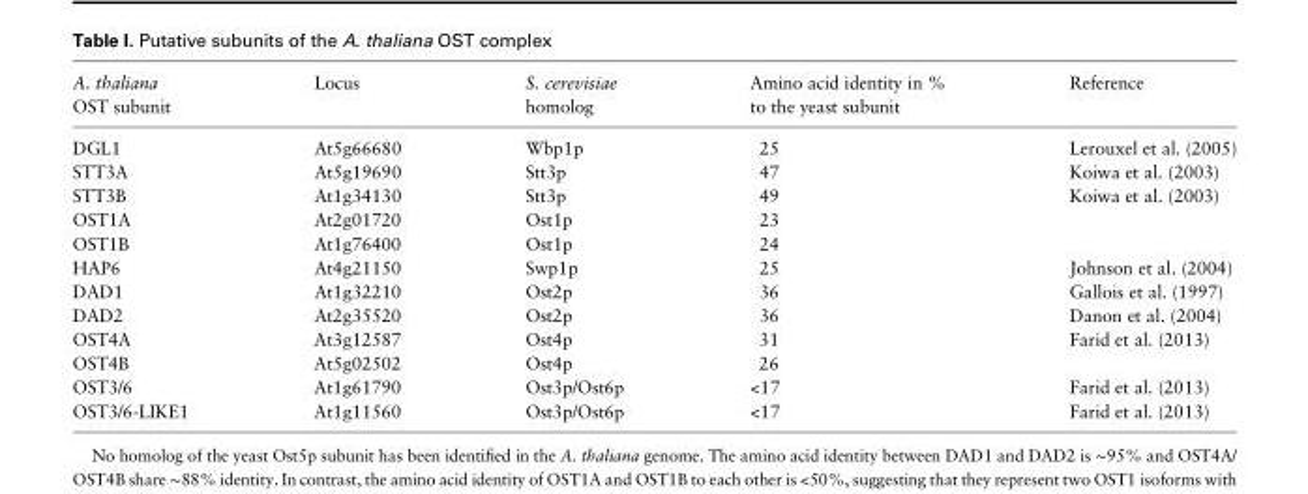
<table><thead><tr><td>A. thaliana OST subunit</td><td>Locus</td><td>S. cerevisiae homolog</td><td>Amino acid identity in % to the yeast subunit</td><td>Reference</td></tr></thead><tbody><tr><td>DGL1</td><td>At5g66680</td><td>Wbp1p</td><td>25</td><td>Lerouxel et al. (2005)</td></tr><tr><td>STT3A STT3B</td><td>At5g19690 At1g34130</td><td>Stt3p Stt3p</td><td>47 49</td><td>Koiwa et al. (2003) Koiwa et al. (2003)</td></tr><tr><td>OST1A OST1B</td><td>At2g01720 At1g76400</td><td>Ost1p Ost1p</td><td>23 24</td><td></td></tr><tr><td>HAP6</td><td>At4g21150</td><td>Swp1p</td><td>25</td><td>Johnson et al. (2004)</td></tr><tr><td>DAD1 DAD2</td><td>At1g32210 At2g35520</td><td>Ost2p Ost2p</td><td>36 36</td><td>Gallois et al. (1997) Danon et al. (2004)</td></tr><tr><td>OST4A OST4B</td><td>At3g12587 At5g02502</td><td>Ost4p Ost4p</td><td>31 26</td><td>Farid et al. (2013)</td></tr><tr><td>OST3/6 OST3/6-LIKE1</td><td>At1g61790 At1g11560</td><td>Ost3p/Ost6p Ost3p/Ost6p</td><td>&lt;17 &lt;17</td><td>Farid et al. (2013) Farid et al. (2013)</td></tr></tbody></table>